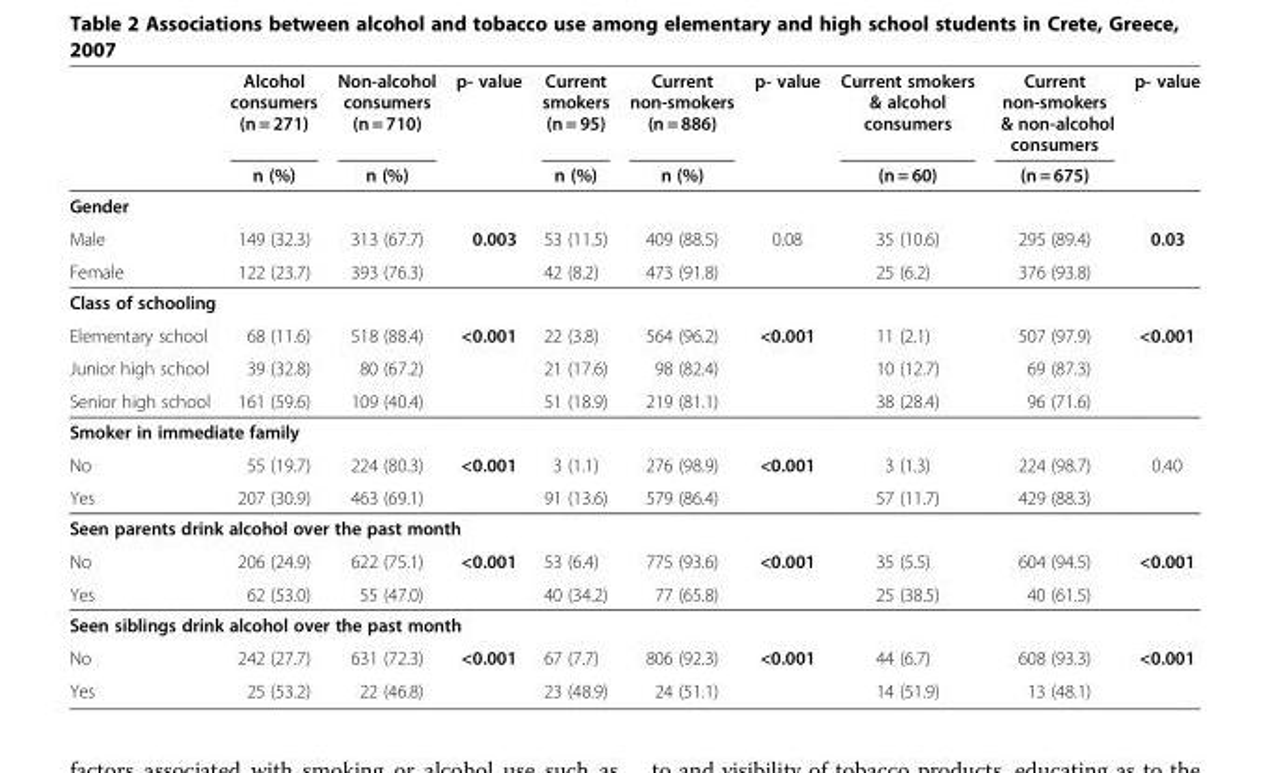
<table><thead><tr><td rowspan="2"></td><td rowspan="2">Alcohol consumers (n = 271) n (%)</td><td rowspan="2">Non-alcohol consumers (n = 710) n (%)</td><td rowspan="2">p- value</td><td rowspan="2">Current smokers (n = 95) n (%)</td><td rowspan="2">Current non-smokers (n = 886) n (%)</td><td rowspan="2">p- value</td><td rowspan="2">Current smokers &amp; alcohol consumers (n = 60)</td><td rowspan="2">Current non-smokers &amp; non-alcohol consumers (n = 675)</td><td rowspan="2">p- value</td></tr><tr></tr></thead><tbody><tr><td colspan="10">Gender</td></tr><tr><td>Male</td><td>149 (32.3)</td><td>313 (67.7)</td><td>0.003</td><td>53 (11.5)</td><td>409 (88.5)</td><td>0.08</td><td>35 (10.6)</td><td>295 (89.4)</td><td>0.03</td></tr><tr><td>Female</td><td>122 (23.7)</td><td>393 (76.3)</td><td></td><td>42 (8.2)</td><td>473 (91.8)</td><td></td><td>25 (6.2)</td><td>376 (93.8)</td><td></td></tr><tr><td colspan="10">Class of schooling</td></tr><tr><td>Elementary school</td><td>68 (11.6)</td><td>518 (88.4)</td><td>&lt;0.001</td><td>22 (3.8)</td><td>564 (96.2)</td><td>&lt;0.001</td><td>11 (2.1)</td><td>507 (97.9)</td><td>&lt;0.001</td></tr><tr><td>Junior high school</td><td>39 (32.8)</td><td>80 (67.2)</td><td></td><td>21 (17.6)</td><td>98 (82.4)</td><td></td><td>10 (12.7)</td><td>69 (87.3)</td><td></td></tr><tr><td>Senior high school</td><td>161 (59.6)</td><td>109 (40.4)</td><td></td><td>51 (18.9)</td><td>219 (81.1)</td><td></td><td>38 (28.4)</td><td>96 (71.6)</td><td></td></tr><tr><td colspan="10">Smoker in immediate family</td></tr><tr><td>No</td><td>55 (19.7)</td><td>224 (80.3)</td><td>&lt;0.001</td><td>3 (1.1)</td><td>276 (98.9)</td><td>&lt;0.001</td><td>3 (1.3)</td><td>224 (98.7)</td><td>0.40</td></tr><tr><td>Yes</td><td>207 (30.9)</td><td>463 (69.1)</td><td></td><td>91 (13.6)</td><td>579 (86.4)</td><td></td><td>57 (11.7)</td><td>429 (88.3)</td><td></td></tr><tr><td colspan="10">Seen parents drink alcohol over the past month</td></tr><tr><td>No</td><td>206 (24.9)</td><td>622 (75.1)</td><td>&lt;0.001</td><td>53 (6.4)</td><td>775 (93.6)</td><td>&lt;0.001</td><td>35 (5.5)</td><td>604 (94.5)</td><td>&lt;0.001</td></tr><tr><td>Yes</td><td>62 (53.0)</td><td>55 (47.0)</td><td></td><td>40 (34.2)</td><td>77 (65.8)</td><td></td><td>25 (38.5)</td><td>40 (61.5)</td><td></td></tr><tr><td colspan="10">Seen siblings drink alcohol over the past month</td></tr><tr><td>No</td><td>242 (27.7)</td><td>631 (72.3)</td><td>&lt;0.001</td><td>67 (7.7)</td><td>806 (92.3)</td><td>&lt;0.001</td><td>44 (6.7)</td><td>608 (93.3)</td><td>&lt;0.001</td></tr><tr><td>Yes</td><td>25 (53.2)</td><td>22 (46.8)</td><td></td><td>23 (48.9)</td><td>24 (51.1)</td><td></td><td>14 (51.9)</td><td>13 (48.1)</td><td></td></tr></tbody></table>